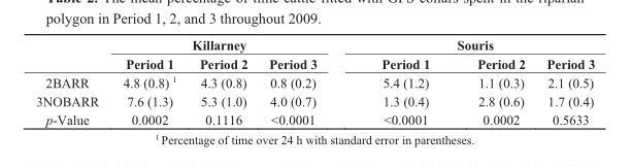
<table><thead><tr><td rowspan="2"></td><td colspan="3">Killarney</td><td colspan="3">Souris</td></tr><tr><td>Period 1</td><td>Period 2</td><td>Period 3</td><td>Period 1</td><td>Period 2</td><td>Period 3</td></tr></thead><tbody><tr><td>2BARR</td><td>4.8 (0.8) <sup>1</sup></td><td>4.3 (0.8)</td><td>0.8 (0.2)</td><td>5.4 (1.2)</td><td>1.1 (0.3)</td><td>2.1 (0.5)</td></tr><tr><td>3NOBARR</td><td>7.6 (1.3)</td><td>5.3 (1.0)</td><td>4.0 (0.7)</td><td>1.3 (0.4)</td><td>2.8 (0.6)</td><td>1.7 (0.4)</td></tr><tr><td>p-Value</td><td>0.0002</td><td>0.1116</td><td>&lt;0.0001</td><td>&lt;0.0001</td><td>0.0002</td><td>0.5633</td></tr></tbody></table>